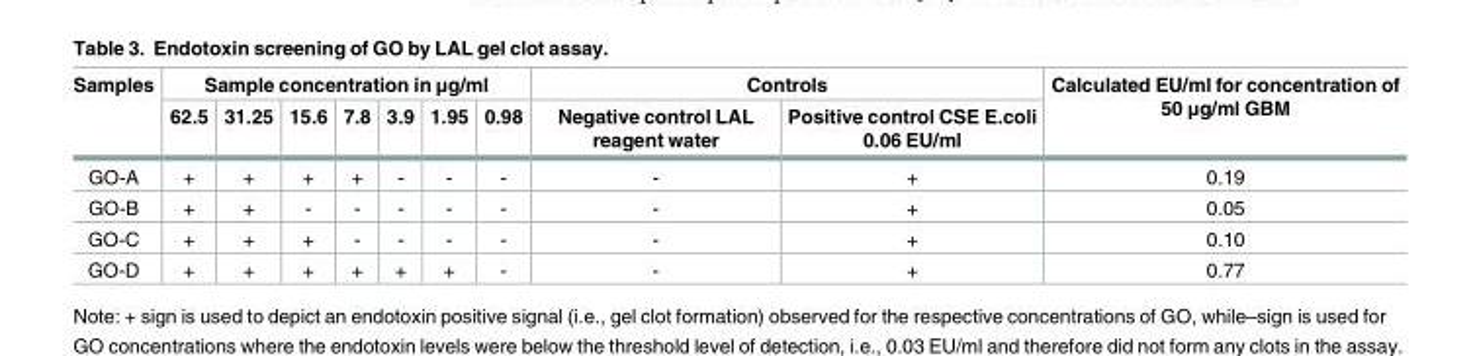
<table><thead><tr><td rowspan="2">Samples</td><td colspan="7">Sample concentration in μg/ml</td><td colspan="2">Controls</td><td rowspan="2">Calculated EU/ml for concentration of 50 μg/ml GBM</td></tr><tr><td>62.5</td><td>31.25</td><td>15.6</td><td>7.8</td><td>3.9</td><td>1.95</td><td>0.98</td><td>Negative control LAL reagent water</td><td>Positive control CSE E.coli 0.06 EU/ml</td></tr></thead><tbody><tr><td>GO-A</td><td>+</td><td>+</td><td>+</td><td>+</td><td>-</td><td>-</td><td>-</td><td>-</td><td>+</td><td>0.19</td></tr><tr><td>GO-B</td><td>+</td><td>+</td><td>-</td><td>-</td><td>-</td><td>-</td><td>-</td><td>-</td><td>+</td><td>0.05</td></tr><tr><td>GO-C</td><td>+</td><td>+</td><td>+</td><td>-</td><td>-</td><td>-</td><td>-</td><td>-</td><td>+</td><td>0.10</td></tr><tr><td>GO-D</td><td>+</td><td>+</td><td>+</td><td>+</td><td>+</td><td>+</td><td>-</td><td>-</td><td>+</td><td>0.77</td></tr></tbody></table>